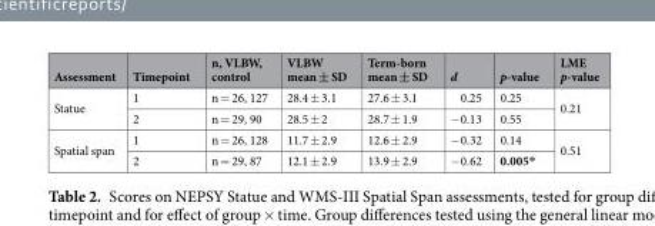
<table><thead><tr><td>Assessment</td><td>Timepoint</td><td>n, VLBW, control</td><td>VLBW mean ± SD</td><td>Term-born mean ± SD</td><td>d</td><td>p-value</td><td>LME p-value</td></tr></thead><tbody><tr><td rowspan="2">Statue</td><td>1</td><td>n = 26, 127</td><td>28.4 ± 3.1</td><td>27.6 ± 3.1</td><td>0.25</td><td>0.25</td><td rowspan="2">0.21</td></tr><tr><td>2</td><td>n = 29, 90</td><td>28.5 ± 2</td><td>28.7 ± 1.9</td><td>−0.13</td><td>0.55</td></tr><tr><td rowspan="2">Spatial span</td><td>1</td><td>n = 26, 128</td><td>11.7 ± 2.9</td><td>12.6 ± 2.9</td><td>−0.32</td><td>0.14</td><td rowspan="2">0.51</td></tr><tr><td>2</td><td>n = 29, 87</td><td>12.1 ± 2.9</td><td>13.9 ± 2.9</td><td>−0.62</td><td>0.005*</td></tr></tbody></table>